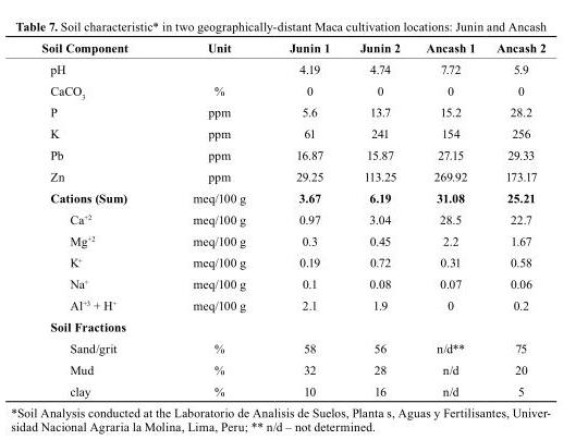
<table><thead><tr><td>soil component</td><td>Unit</td><td>Junin 1</td><td>Junin 2</td><td>Ancash 1</td><td>Ancash 2</td></tr></thead><tbody><tr><td>pH</td><td></td><td>4.19</td><td>4.74</td><td>7.72</td><td>5.9</td></tr><tr><td>CaCO<sub>3</sub></td><td>%</td><td>0</td><td>0</td><td>0</td><td>0</td></tr><tr><td>P</td><td>ppm</td><td>5.6</td><td>13.7</td><td>15.2</td><td>28.2</td></tr><tr><td>K</td><td>ppm</td><td>61</td><td>241</td><td>154</td><td>256</td></tr><tr><td>Pb</td><td>ppm</td><td>16.87</td><td>15.87</td><td>27.15</td><td>29.33</td></tr><tr><td>Zn</td><td>ppm</td><td>29.25</td><td>113.25</td><td>269.92</td><td>173.17</td></tr><tr><td>cations (sum)</td><td>meq/100 g</td><td>3.67</td><td>6.19</td><td>31.08</td><td>25.21</td></tr><tr><td>Ca<sup>+2</sup></td><td>meq/100 g</td><td>0.97</td><td>3.04</td><td>28.5</td><td>22.7</td></tr><tr><td>Mg<sup>+2</sup></td><td>meq/100 g</td><td>0.3</td><td>0.45</td><td>2.2</td><td>1.67</td></tr><tr><td>K<sup>+</sup></td><td>meq/100 g</td><td>0.19</td><td>0.72</td><td>0.31</td><td>0.58</td></tr><tr><td>Na<sup>+</sup></td><td>meq/100 g</td><td>0.1</td><td>0.08</td><td>0.07</td><td>0.06</td></tr><tr><td>Al<sup>+3</sup> + H<sup>+</sup></td><td>meq/100 g</td><td>2.1</td><td>1.9</td><td>0</td><td>0.2</td></tr><tr><td colspan="6">soil Fractions</td></tr><tr><td>Sand/grit</td><td>%</td><td>58</td><td>56</td><td>n/d**</td><td>75</td></tr><tr><td>Mud</td><td>%</td><td>32</td><td>28</td><td>n/d</td><td>20</td></tr><tr><td>clay</td><td>%</td><td>10</td><td>16</td><td>n/d</td><td>5</td></tr></tbody></table>